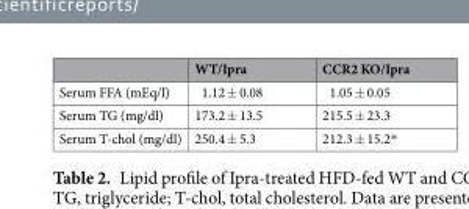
<table><thead><tr><td></td><td>WT/Ipra</td><td>CCR2 KO/Ipra</td></tr></thead><tbody><tr><td>Serum FFA (mEq/l)</td><td>1.12 ± 0.08</td><td>1.05 ± 0.05</td></tr><tr><td>Serum TG (mg/dl)</td><td>173.2 ± 13.5</td><td>215.5 ± 23.3</td></tr><tr><td>Serum T-chol (mg/dl)</td><td>250.4 ± 5.3</td><td>212.3 ± 15.2*</td></tr></tbody></table>